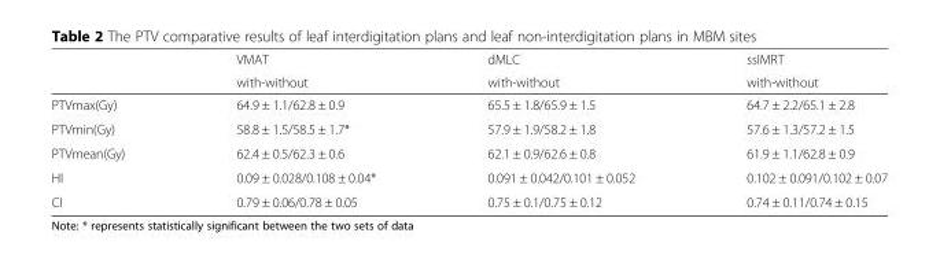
<table><thead><tr><td rowspan="2"></td><td rowspan="2">VMAT with-without</td><td rowspan="2">dMLC with-without</td><td rowspan="2">ssIMRT with-without</td></tr><tr></tr></thead><tbody><tr><td>PTVmax(Gy)</td><td>64.9 ± 1.1/62.8 ± 0.9</td><td>65.5 ± 1.8/65.9 ± 1.5</td><td>64.7 ± 2.2/65.1 ± 2.8</td></tr><tr><td>PTVmin(Gy)</td><td>58.8 ± 1.5/58.5 ± 1.7*</td><td>57.9 ± 1.9/58.2 ± 1.8</td><td>57.6 ± 1.3/57.2 ± 1.5</td></tr><tr><td>PTVmean(Gy)</td><td>62.4 ± 0.5/62.3 ± 0.6</td><td>62.1 ± 0.9/62.6 ± 0.8</td><td>61.9 ± 1.1/62.8 ± 0.9</td></tr><tr><td>HI</td><td>0.09 ± 0.028/0.108 ± 0.04*</td><td>0.091 ± 0.042/0.101 ± 0.052</td><td>0.102 ± 0.091/0.102 ± 0.07</td></tr><tr><td>CI</td><td>0.79 ± 0.06/0.78 ± 0.05</td><td>0.75 ± 0.1/0.75 ± 0.12</td><td>0.74 ± 0.11/0.74 ± 0.15</td></tr></tbody></table>